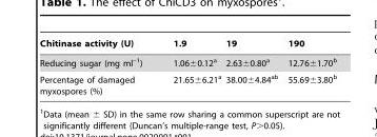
<table><thead><tr><td>Chitinase activity (U)</td><td>1.9</td><td>19</td><td>190</td></tr></thead><tbody><tr><td>Reducing sugar (mg ml<sup>–1</sup>)</td><td>1.06±0.12<sup>a</sup></td><td>2.63±0.80<sup>a</sup></td><td>12.76±1.70<sup>b</sup></td></tr><tr><td>Percentage of damaged myxospores (%)</td><td>21.65±6.21<sup>a</sup></td><td>38.00±4.84<sup>ab</sup></td><td>55.69±3.80<sup>b</sup></td></tr></tbody></table>